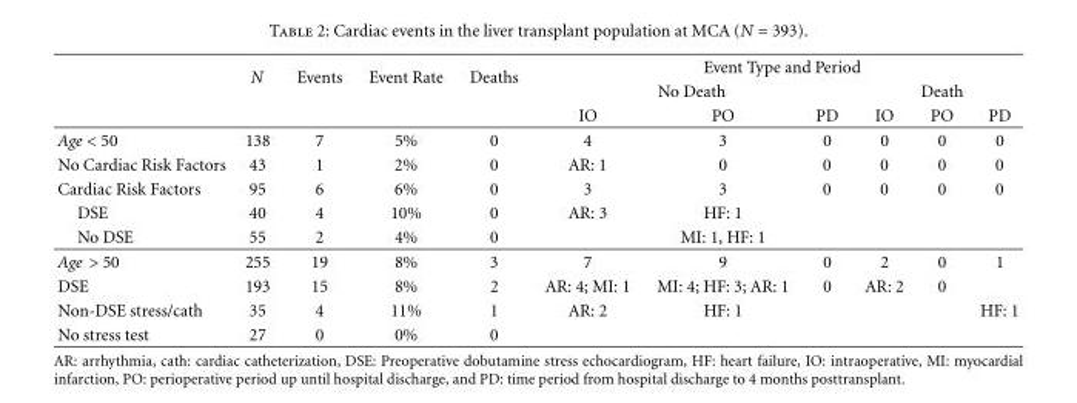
<table><thead><tr><td rowspan="3"></td><td rowspan="3">N</td><td rowspan="3">Events</td><td rowspan="3">Event Rate</td><td rowspan="3">Deaths</td><td colspan="6">Event Type and Period</td></tr><tr><td colspan="3">No Death</td><td colspan="3">Death</td></tr><tr><td>IO</td><td>PO</td><td>PD</td><td>IO</td><td>PO</td><td>PD</td></tr></thead><tbody><tr><td>Age &lt; 50</td><td>138</td><td>7</td><td>5%</td><td>0</td><td>4</td><td>3</td><td>0</td><td>0</td><td>0</td><td>0</td></tr><tr><td>No Cardiac Risk Factors</td><td>43</td><td>1</td><td>2%</td><td>0</td><td>AR: 1</td><td>0</td><td>0</td><td>0</td><td>0</td><td>0</td></tr><tr><td>Cardiac Risk Factors</td><td>95</td><td>6</td><td>6%</td><td>0</td><td>3</td><td>3</td><td>0</td><td>0</td><td>0</td><td>0</td></tr><tr><td>DSE</td><td>40</td><td>4</td><td>10%</td><td>0</td><td>AR: 3</td><td>HF: 1</td><td></td><td></td><td></td><td></td></tr><tr><td>No DSE</td><td>55</td><td>2</td><td>4%</td><td>0</td><td></td><td>MI: 1, HF: 1</td><td></td><td></td><td></td><td></td></tr><tr><td>Age &gt; 50</td><td>255</td><td>19</td><td>8%</td><td>3</td><td>7</td><td>9</td><td>0</td><td>2</td><td>0</td><td>1</td></tr><tr><td>DSE</td><td>193</td><td>15</td><td>8%</td><td>2</td><td>AR: 4; MI: 1</td><td>MI: 4; HF: 3; AR: 1</td><td>0</td><td>AR: 2</td><td>0</td><td></td></tr><tr><td>Non-DSE stress/cath</td><td>35</td><td>4</td><td>11%</td><td>1</td><td>AR: 2</td><td>HF: 1</td><td></td><td></td><td></td><td>HF: 1</td></tr><tr><td>No stress test</td><td>27</td><td>0</td><td>0%</td><td>0</td><td></td><td></td><td></td><td></td><td></td><td></td></tr></tbody></table>